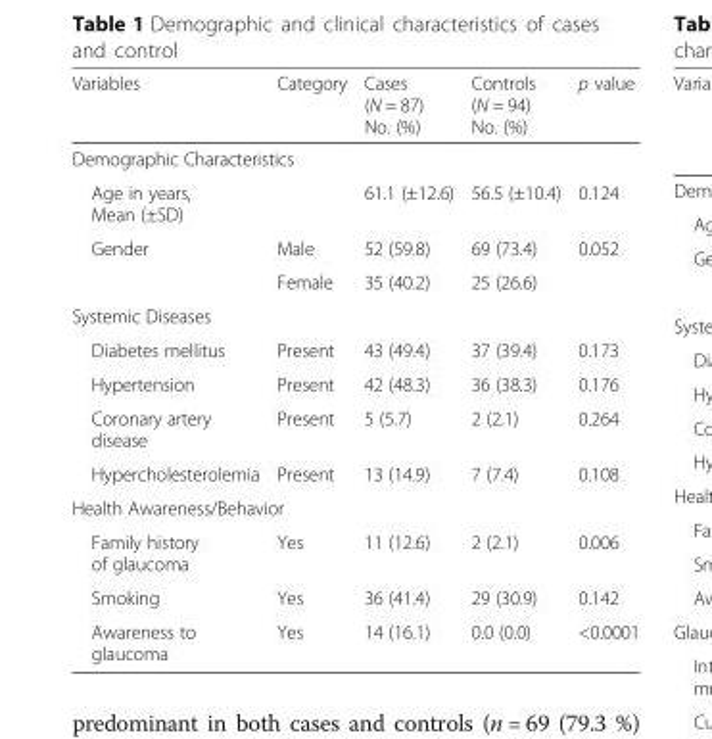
<table><thead><tr><td>Variables</td><td>Category</td><td>Cases (N = 87) No. (%)</td><td>Controls (N = 94) No. (%)</td><td>p value</td></tr></thead><tbody><tr><td colspan="5">Demographic Characteristics</td></tr><tr><td>Age in years, Mean (±SD)</td><td></td><td>61.1 (±12.6)</td><td>56.5 (±10.4)</td><td>0.124</td></tr><tr><td rowspan="2">Gender</td><td>Male</td><td>52 (59.8)</td><td>69 (73.4)</td><td>0.052</td></tr><tr><td>Female</td><td>35 (40.2)</td><td>25 (26.6)</td><td></td></tr><tr><td colspan="5">Systemic Diseases</td></tr><tr><td>Diabetes mellitus</td><td>Present</td><td>43 (49.4)</td><td>37 (39.4)</td><td>0.173</td></tr><tr><td>Hypertension</td><td>Present</td><td>42 (48.3)</td><td>36 (38.3)</td><td>0.176</td></tr><tr><td>Coronary artery disease</td><td>Present</td><td>5 (5.7)</td><td>2 (2.1)</td><td>0.264</td></tr><tr><td>Hypercholesterolemia</td><td>Present</td><td>13 (14.9)</td><td>7 (7.4)</td><td>0.108</td></tr><tr><td colspan="5">Health Awareness/Behavior</td></tr><tr><td>Family history of glaucoma</td><td>Yes</td><td>11 (12.6)</td><td>2 (2.1)</td><td>0.006</td></tr><tr><td>Smoking</td><td>Yes</td><td>36 (41.4)</td><td>29 (30.9)</td><td>0.142</td></tr><tr><td>Awareness to glaucoma</td><td>Yes</td><td>14 (16.1)</td><td>0.0 (0.0)</td><td>&lt;0.0001</td></tr></tbody></table>